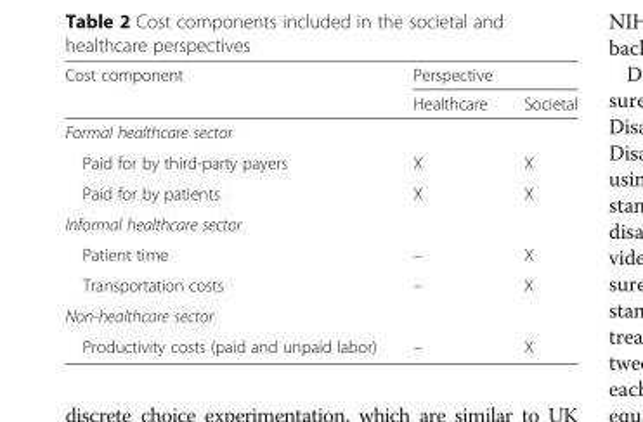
<table><thead><tr><td rowspan="2">Cost component</td><td colspan="2">Perspective</td></tr><tr><td>Healthcare</td><td>Societal</td></tr></thead><tbody><tr><td colspan="3">Formal healthcare sector</td></tr><tr><td>Paid for by third-party payers</td><td>X</td><td>X</td></tr><tr><td>Paid for by patients</td><td>X</td><td>X</td></tr><tr><td colspan="3">Informal healthcare sector</td></tr><tr><td>Patient time</td><td>–</td><td>X</td></tr><tr><td>Transportation costs</td><td>–</td><td>X</td></tr><tr><td colspan="3">Non-healthcare sector</td></tr><tr><td>Productivity costs (paid and unpaid labor)</td><td>–</td><td>X</td></tr></tbody></table>